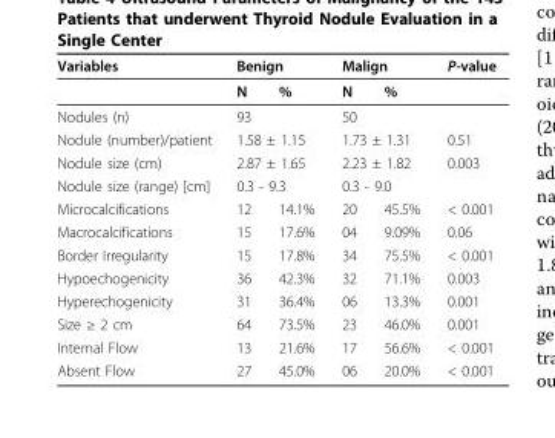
<table><thead><tr><td rowspan="2">Variables</td><td colspan="2">Benign</td><td colspan="2">Malign</td><td rowspan="2">P-value</td></tr><tr><td>N</td><td>%</td><td>N</td><td>%</td></tr></thead><tbody><tr><td>Nodules (n)</td><td>93</td><td></td><td>50</td><td></td><td></td></tr><tr><td>Nodule (number)/patient</td><td colspan="2">1.58 ± 1.15</td><td colspan="2">1.73 ± 1.31</td><td>0.51</td></tr><tr><td>Nodule size (cm)</td><td colspan="2">2.87 ± 1.65</td><td colspan="2">2.23 ± 1.82</td><td>0.003</td></tr><tr><td>Nodule size (range) [cm]</td><td colspan="2">0.3 - 9.3</td><td colspan="2">0.3 - 9.0</td><td></td></tr><tr><td>Microcalcifications</td><td>12</td><td>14.1%</td><td>20</td><td>45.5%</td><td>&lt; 0.001</td></tr><tr><td>Macrocalcifications</td><td>15</td><td>17.6%</td><td>04</td><td>9.09%</td><td>0.06</td></tr><tr><td>Border Irregularity</td><td>15</td><td>17.8%</td><td>34</td><td>75.5%</td><td>&lt; 0.001</td></tr><tr><td>Hypoechogenicity</td><td>36</td><td>42.3%</td><td>32</td><td>71.1%</td><td>0.003</td></tr><tr><td>Hyperechogenicity</td><td>31</td><td>36.4%</td><td>06</td><td>13.3%</td><td>0.001</td></tr><tr><td>Size ≥ 2 cm</td><td>64</td><td>73.5%</td><td>23</td><td>46.0%</td><td>0.001</td></tr><tr><td>Internal Flow</td><td>13</td><td>21.6%</td><td>17</td><td>56.6%</td><td>&lt; 0.001</td></tr><tr><td>Absent Flow</td><td>27</td><td>45.0%</td><td>06</td><td>20.0%</td><td>&lt; 0.001</td></tr></tbody></table>